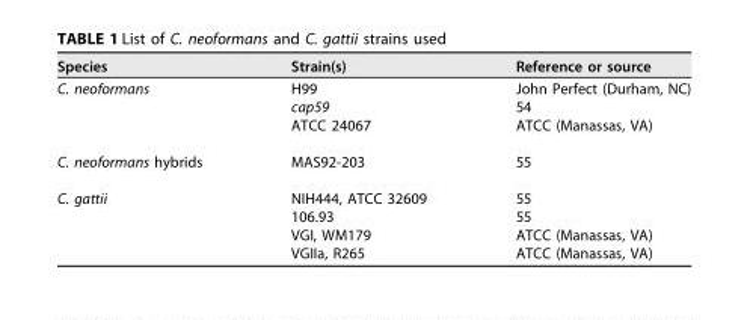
<table><thead><tr><td>Species</td><td>Strain(s)</td><td>Reference or source</td></tr></thead><tbody><tr><td rowspan="3">C. neoformans</td><td>H99</td><td>John Perfect (Durham, NC)</td></tr><tr><td>cap59</td><td>54</td></tr><tr><td>ATCC 24067</td><td>ATCC (Manassas, VA)</td></tr><tr><td>C. neoformans hybrids</td><td>MAS92-203</td><td>55</td></tr><tr><td rowspan="4">C. gattii</td><td>NIH444, ATCC 32609</td><td>55</td></tr><tr><td>106.93</td><td>55</td></tr><tr><td>VGI, WM179</td><td>ATCC (Manassas, VA)</td></tr><tr><td>VGIIa, R265</td><td>ATCC (Manassas, VA)</td></tr></tbody></table>